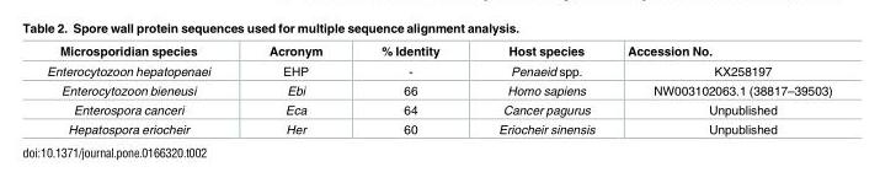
<table><thead><tr><td>Microsporidian species</td><td>Acronym</td><td>% Identity</td><td>Host species</td><td>Accession No.</td></tr></thead><tbody><tr><td>Enterocytozoon hepatopenaei</td><td>EHP</td><td>-</td><td>Penaeid spp.</td><td>KX258197</td></tr><tr><td>Enterocytozoon bieneusi</td><td>Ebi</td><td>66</td><td>Homo sapiens</td><td>NW003102063.1 (38817–39503)</td></tr><tr><td>Enterospora canceri</td><td>Eca</td><td>64</td><td>Cancer pagurus</td><td>Unpublished</td></tr><tr><td>Hepatospora eriocheir</td><td>Her</td><td>60</td><td>Eriocheir sinensis</td><td>Unpublished</td></tr></tbody></table>